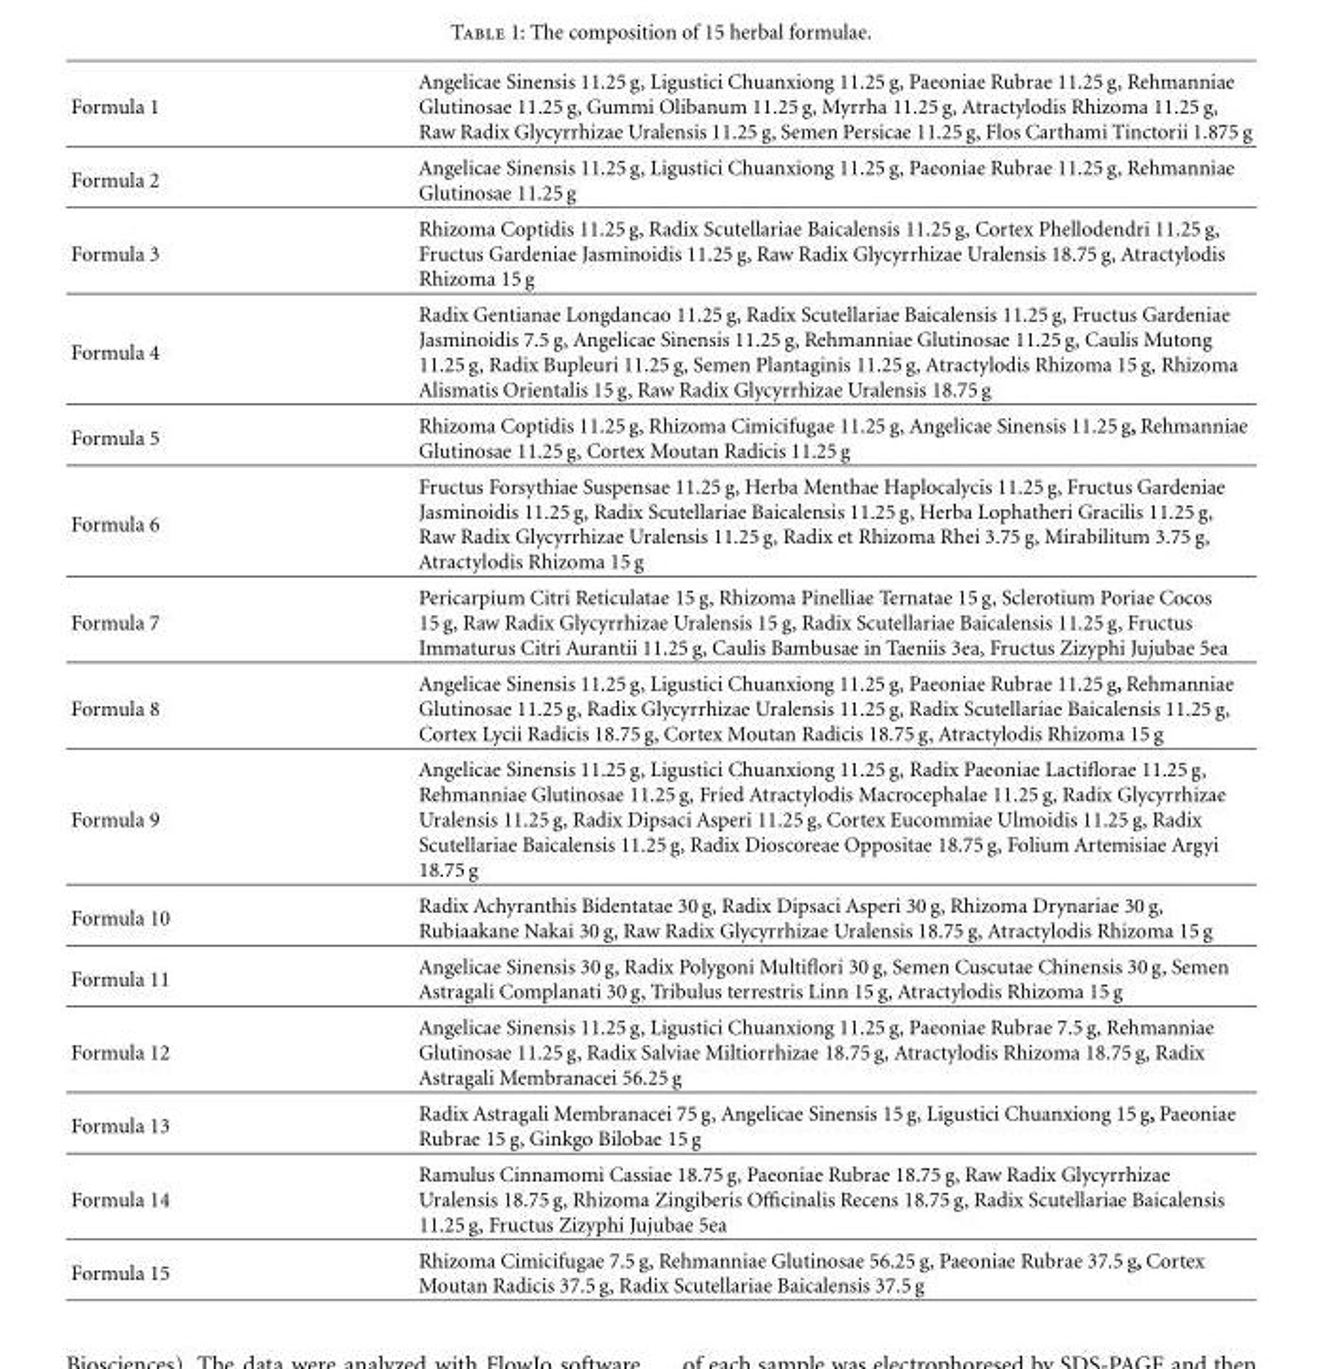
<table><tbody><tr><td>Formula 1</td><td>Angelicae Sinensis 11.25 g, Ligustici Chuanxiong 11.25 g, Paeoniae Rubrae 11.25 g, Rehmanniae Glutinosae 11.25 g, Gummi Olibanum 11.25 g, Myrrha 11.25 g, Atractylodis Rhizoma 11.25 g, Raw Radix Glycyrrhizae Uralensis 11.25 g, Semen Persicae 11.25 g, Flos Carthami Tinctorii 1.875 g</td></tr><tr><td>Formula 2</td><td>Angelicae Sinensis 11.25 g, Ligustici Chuanxiong 11.25 g, Paeoniae Rubrae 11.25 g, Rehmanniae Glutinosae 11.25 g</td></tr><tr><td>Formula 3</td><td>Rhizoma Coptidis 11.25 g, Radix Scutellariae Baicalensis 11.25 g, Cortex Phellodendri 11.25 g, Fructus Gardeniae Jasminoidis 11.25 g, Raw Radix Glycyrrhizae Uralensis 18.75 g, Atractylodis Rhizoma 15 g</td></tr><tr><td>Formula 4</td><td>Radix Gentianae Longdancao 11.25 g, Radix Scutellariae Baicalensis 11.25 g, Fructus Gardeniae Jasminoidis 7.5 g, Angelicae Sinensis 11.25 g, Rehmanniae Glutinosae 11.25 g, Caulis Mutong 11.25 g, Radix Bupleuri 11.25 g, Semen Plantaginis 11.25 g, Atractylodis Rhizoma 15 g, Rhizoma Alismatis Orientalis 15 g, Raw Radix Glycyrrhizae Uralensis 18.75 g</td></tr><tr><td>Formula 5</td><td>Rhizoma Coptidis 11.25 g, Rhizoma Cimicifugae 11.25 g, Angelicae Sinensis 11.25 g, Rehmanniae Glutinosae 11.25 g, Cortex Moutan Radicis 11.25 g</td></tr><tr><td>Formula 6</td><td>Fructus Forsythiae Suspensae 11.25 g, Herba Menthae Haplocalycis 11.25 g, Fructus Gardeniae Jasminoidis 11.25 g, Radix Scutellariae Baicalensis 11.25 g, Herba Lophatheri Gracilis 11.25 g, Raw Radix Glycyrrhizae Uralensis 11.25 g, Radix et Rhizoma Rhei 3.75 g, Mirabilitum 3.75 g, Atractylodis Rhizoma 15 g</td></tr><tr><td>Formula 7</td><td>Pericarpium Citri Reticulatae 15 g, Rhizoma Pinelliae Ternatae 15 g, Sclerotium Poriae Cocos 15 g, Raw Radix Glycyrrhizae Uralensis 15 g, Radix Scutellariae Baicalensis 11.25 g, Fructus Immaturus Citri Aurantii 11.25 g, Caulis Bambusae in Taeniis 3ea, Fructus Zizyphi Jujubae 5ea</td></tr><tr><td>Formula 8</td><td>Angelicae Sinensis 11.25 g, Ligustici Chuanxiong 11.25 g, Paeoniae Rubrae 11.25 g, Rehmanniae Glutinosae 11.25 g, Radix Glycyrrhizae Uralensis 11.25 g, Radix Scutellariae Baicalensis 11.25 g, Cortex Lycii Radicis 18.75 g, Cortex Moutan Radicis 18.75 g, Atractylodis Rhizoma 15 g</td></tr><tr><td>Formula 9</td><td>Angelicae Sinensis 11.25 g, Ligustici Chuanxiong 11.25 g, Radix Paeoniae Lactiflorae 11.25 g, Rehmanniae Glutinosae 11.25 g, Fried Atractylodis Macrocephalae 11.25 g, Radix Glycyrrhizae Uralensis 11.25 g, Radix Dipsaci Asperi 11.25 g, Cortex Eucommiae Ulmoidis 11.25 g, Radix Scutellariae Baicalensis 11.25 g, Radix Dioscoreae Oppositae 18.75 g, Folium Artemisiae Argyi 18.75 g</td></tr><tr><td>Formula 10</td><td>Radix Achyranthis Bidentatae 30 g, Radix Dipsaci Asperi 30 g, Rhizoma Drynariae 30 g, Rubiaakane Nakai 30 g, Raw Radix Glycyrrhizae Uralensis 18.75 g, Atractylodis Rhizoma 15 g</td></tr><tr><td>Formula 11</td><td>Angelicae Sinensis 30 g, Radix Polygoni Multiflori 30 g, Semen Cuscutae Chinensis 30 g, Semen Astragali Complanati 30 g, Tribulus terrestris Linn 15 g, Atractylodis Rhizoma 15 g</td></tr><tr><td>Formula 12</td><td>Angelicae Sinensis 11.25 g, Ligustici Chuanxiong 11.25 g, Paeoniae Rubrae 7.5 g, Rehmanniae Glutinosae 11.25 g, Radix Salviae Miltiorrhizae 18.75 g, Atractylodis Rhizoma 18.75 g, Radix Astragali Membranacei 56.25 g</td></tr><tr><td>Formula 13</td><td>Radix Astragali Membranacei 75 g, Angelicae Sinensis 15 g, Ligustici Chuanxiong 15 g, Paeoniae Rubrae 15 g, Ginkgo Bilobae 15 g</td></tr><tr><td>Formula 14</td><td>Ramulus Cinnamomi Cassiae 18.75 g, Paeoniae Rubrae 18.75 g, Raw Radix Glycyrrhizae Uralensis 18.75 g, Rhizoma Zingiberis Officinalis Recens 18.75 g, Radix Scutellariae Baicalensis 11.25 g, Fructus Zizyphi Jujubae 5ea</td></tr><tr><td>Formula 15</td><td>Rhizoma Cimicifugae 7.5 g, Rehmanniae Glutinosae 56.25 g, Paeoniae Rubrae 37.5 g, Cortex Moutan Radicis 37.5 g, Radix Scutellariae Baicalensis 37.5 g</td></tr></tbody></table>